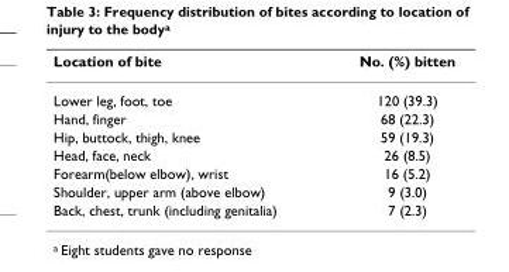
<table><thead><tr><td>Location of bite</td><td>No. (%) bitten</td></tr></thead><tbody><tr><td>Lower leg, foot, toe</td><td>120 (39.3)</td></tr><tr><td>Hand, finger</td><td>68 (22.3)</td></tr><tr><td>Hip, buttock, thigh, knee</td><td>59 (19.3)</td></tr><tr><td>Head, face, neck</td><td>26 (8.5)</td></tr><tr><td>Forearm(below elbow), wrist</td><td>16 (5.2)</td></tr><tr><td>Shoulder, upper arm (above elbow)</td><td>9 (3.0)</td></tr><tr><td>Back, chest, trunk (including genitalia)</td><td>7 (2.3)</td></tr></tbody></table>